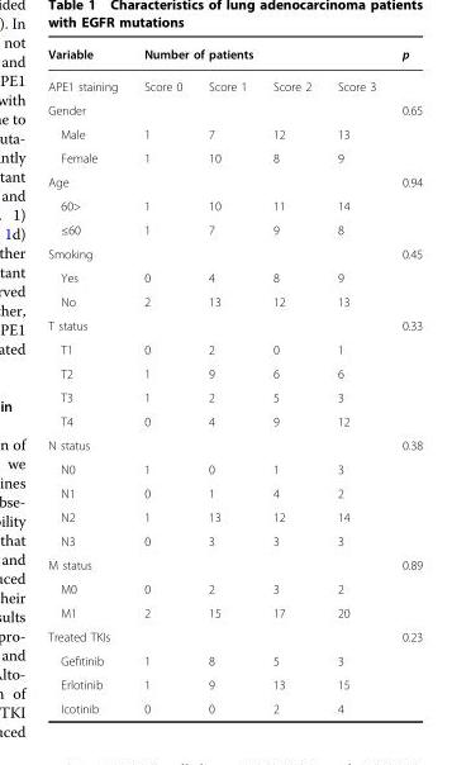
<table><thead><tr><td rowspan="2">Variable APE1 staining</td><td colspan="4">Number of patients</td><td rowspan="2">p</td></tr><tr><td>Score 0</td><td>Score 1</td><td>Score 2</td><td>Score 3</td></tr></thead><tbody><tr><td>Gender</td><td></td><td></td><td></td><td></td><td>0.65</td></tr><tr><td>Male</td><td>1</td><td>7</td><td>12</td><td>13</td><td></td></tr><tr><td>Female</td><td>1</td><td>10</td><td>8</td><td>9</td><td></td></tr><tr><td>Age</td><td></td><td></td><td></td><td></td><td>0.94</td></tr><tr><td>60&gt;</td><td>1</td><td>10</td><td>11</td><td>14</td><td></td></tr><tr><td>≤60</td><td>1</td><td>7</td><td>9</td><td>8</td><td></td></tr><tr><td>Smoking</td><td></td><td></td><td></td><td></td><td>0.45</td></tr><tr><td>Yes</td><td>0</td><td>4</td><td>8</td><td>9</td><td></td></tr><tr><td>No</td><td>2</td><td>13</td><td>12</td><td>13</td><td></td></tr><tr><td>T status</td><td></td><td></td><td></td><td></td><td>0.33</td></tr><tr><td>T1</td><td>0</td><td>2</td><td>0</td><td>1</td><td></td></tr><tr><td>T2</td><td>1</td><td>9</td><td>6</td><td>6</td><td></td></tr><tr><td>T3</td><td>1</td><td>2</td><td>5</td><td>3</td><td></td></tr><tr><td>T4</td><td>0</td><td>4</td><td>9</td><td>12</td><td></td></tr><tr><td>N status</td><td></td><td></td><td></td><td></td><td>0.38</td></tr><tr><td>N0</td><td>1</td><td>0</td><td>1</td><td>3</td><td></td></tr><tr><td>N1</td><td>0</td><td>1</td><td>4</td><td>2</td><td></td></tr><tr><td>N2</td><td>1</td><td>13</td><td>12</td><td>14</td><td></td></tr><tr><td>N3</td><td>0</td><td>3</td><td>3</td><td>3</td><td></td></tr><tr><td>M status</td><td></td><td></td><td></td><td></td><td>0.89</td></tr><tr><td>M0</td><td>0</td><td>2</td><td>3</td><td>2</td><td></td></tr><tr><td>M1</td><td>2</td><td>15</td><td>17</td><td>20</td><td></td></tr><tr><td>Treated TKIs</td><td></td><td></td><td></td><td></td><td>0.23</td></tr><tr><td>Gefitinib</td><td>1</td><td>8</td><td>5</td><td>3</td><td></td></tr><tr><td>Erlotinib</td><td>1</td><td>9</td><td>13</td><td>15</td><td></td></tr><tr><td>Icotinib</td><td>0</td><td>0</td><td>2</td><td>4</td><td></td></tr></tbody></table>